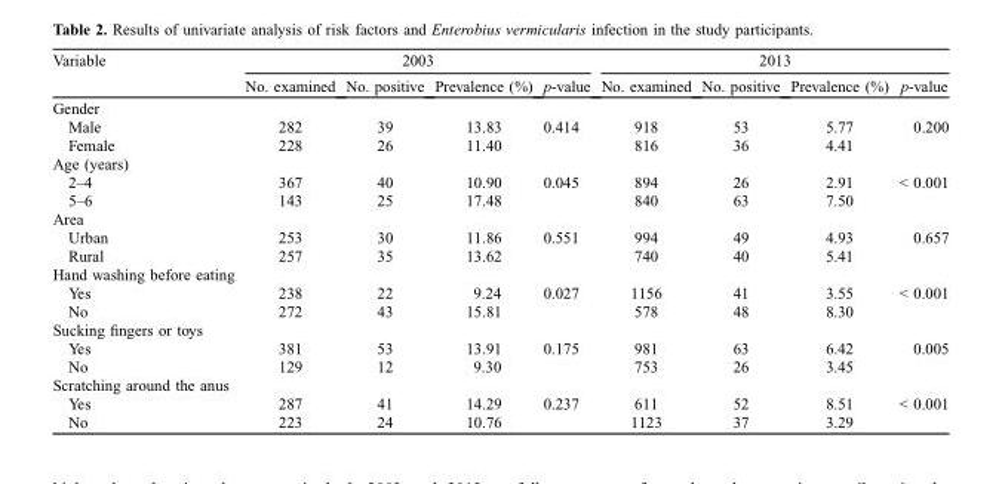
<table><thead><tr><td rowspan="2">Variable</td><td colspan="4">2003</td><td colspan="4">2013</td></tr><tr><td>No. examined</td><td>No. positive</td><td>Prevalence (%)</td><td>p-value</td><td>No. examined</td><td>No. positive</td><td>Prevalence (%)</td><td>p-value</td></tr></thead><tbody><tr><td colspan="9">Gender</td></tr><tr><td>Male</td><td>282</td><td>39</td><td>13.83</td><td rowspan="2">0.414</td><td>918</td><td>53</td><td>5.77</td><td rowspan="2">0.200</td></tr><tr><td>Female</td><td>228</td><td>26</td><td>11.40</td><td>816</td><td>36</td><td>4.41</td></tr><tr><td colspan="9">Age (years)</td></tr><tr><td>2–4</td><td>367</td><td>40</td><td>10.90</td><td rowspan="2">0.045</td><td>894</td><td>26</td><td>2.91</td><td rowspan="2">&lt; 0.001</td></tr><tr><td>5–6</td><td>143</td><td>25</td><td>17.48</td><td>840</td><td>63</td><td>7.50</td></tr><tr><td colspan="9">Area</td></tr><tr><td>Urban</td><td>253</td><td>30</td><td>11.86</td><td rowspan="2">0.551</td><td>994</td><td>49</td><td>4.93</td><td rowspan="2">0.657</td></tr><tr><td>Rural</td><td>257</td><td>35</td><td>13.62</td><td>740</td><td>40</td><td>5.41</td></tr><tr><td colspan="9">Hand washing before eating</td></tr><tr><td>Yes</td><td>238</td><td>22</td><td>9.24</td><td rowspan="2">0.027</td><td>1156</td><td>41</td><td>3.55</td><td rowspan="2">&lt; 0.001</td></tr><tr><td>No</td><td>272</td><td>43</td><td>15.81</td><td>578</td><td>48</td><td>8.30</td></tr><tr><td colspan="9">Sucking fingers or toys</td></tr><tr><td>Yes</td><td>381</td><td>53</td><td>13.91</td><td rowspan="2">0.175</td><td>981</td><td>63</td><td>6.42</td><td rowspan="2">0.005</td></tr><tr><td>No</td><td>129</td><td>12</td><td>9.30</td><td>753</td><td>26</td><td>3.45</td></tr><tr><td colspan="9">Scratching around the anus</td></tr><tr><td>Yes</td><td>287</td><td>41</td><td>14.29</td><td rowspan="2">0.237</td><td>611</td><td>52</td><td>8.51</td><td rowspan="2">&lt; 0.001</td></tr><tr><td>No</td><td>223</td><td>24</td><td>10.76</td><td>1123</td><td>37</td><td>3.29</td></tr></tbody></table>